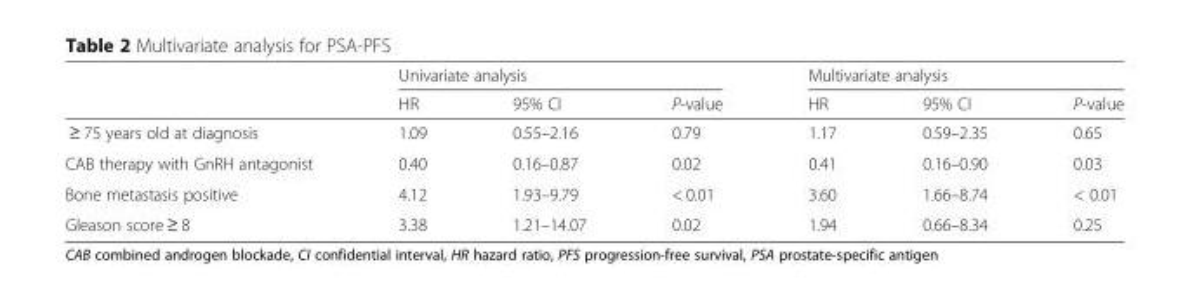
<table><thead><tr><td rowspan="2"></td><td colspan="3">Univariate analysis</td><td colspan="3">Multivariate analysis</td></tr><tr><td>HR</td><td>95% CI</td><td>P-value</td><td>HR</td><td>95% CI</td><td>P-value</td></tr></thead><tbody><tr><td>≥ 75 years old at diagnosis</td><td>1.09</td><td>0.55–2.16</td><td>0.79</td><td>1.17</td><td>0.59–2.35</td><td>0.65</td></tr><tr><td>CAB therapy with GnRH antagonist</td><td>0.40</td><td>0.16–0.87</td><td>0.02</td><td>0.41</td><td>0.16–0.90</td><td>0.03</td></tr><tr><td>Bone metastasis positive</td><td>4.12</td><td>1.93–9.79</td><td>&lt; 0.01</td><td>3.60</td><td>1.66–8.74</td><td>&lt; 0.01</td></tr><tr><td>Gleason score ≥ 8</td><td>3.38</td><td>1.21–14.07</td><td>0.02</td><td>1.94</td><td>0.66–8.34</td><td>0.25</td></tr></tbody></table>